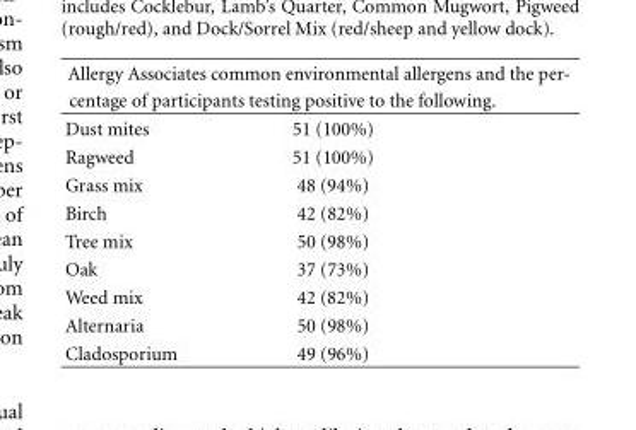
<table><thead><tr><td colspan="2">Allergy Associates common environmental allergens and the per- centage of participants testing positive to the following.</td></tr><tr><td>Dust mites</td><td>51 (100%)</td></tr></thead><tbody><tr><td>Ragweed</td><td>51 (100%)</td></tr><tr><td>Grass mix</td><td>48 (94%)</td></tr><tr><td>Birch</td><td>42 (82%)</td></tr><tr><td>Tree mix</td><td>50 (98%)</td></tr><tr><td>Oak</td><td>37 (73%)</td></tr><tr><td>Weed mix</td><td>42 (82%)</td></tr><tr><td>Alternaria</td><td>50 (98%)</td></tr><tr><td>Cladosporium</td><td>49 (96%)</td></tr></tbody></table>